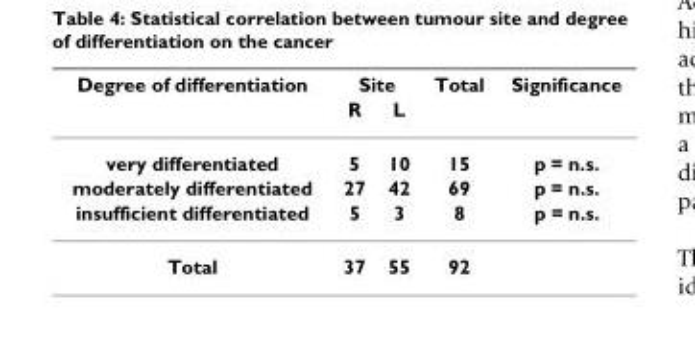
<table><thead><tr><td rowspan="2">Degree of differentiation</td><td colspan="2">Site</td><td rowspan="2">Total</td><td rowspan="2">Significance</td></tr><tr><td>R</td><td>L</td></tr></thead><tbody><tr><td>very differentiated</td><td>5</td><td>10</td><td>15</td><td>p = n.s.</td></tr><tr><td>moderately differentiated</td><td>27</td><td>42</td><td>69</td><td>p = n.s.</td></tr><tr><td>insufficient differentiated</td><td>5</td><td>3</td><td>8</td><td>p = n.s.</td></tr><tr><td>Total</td><td>37</td><td>55</td><td>92</td><td></td></tr></tbody></table>